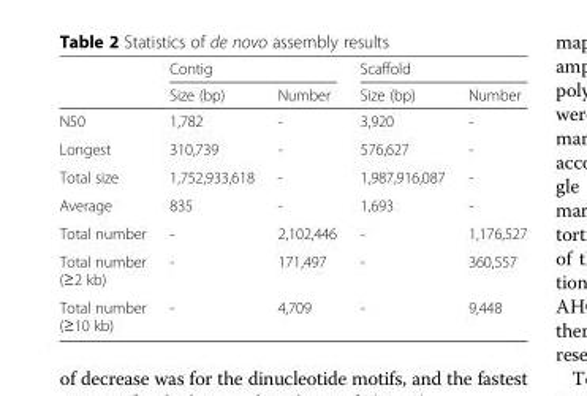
<table><thead><tr><td rowspan="2"></td><td colspan="2">Contig</td><td colspan="2">Scaffold</td></tr><tr><td>Size (bp)</td><td>Number</td><td>Size (bp)</td><td>Number</td></tr></thead><tbody><tr><td>N50</td><td>1,782</td><td>-</td><td>3,920</td><td>-</td></tr><tr><td>Longest</td><td>310,739</td><td>-</td><td>576,627</td><td>-</td></tr><tr><td>Total size</td><td>1,752,933,618</td><td>-</td><td>1,987,916,087</td><td>-</td></tr><tr><td>Average</td><td>835</td><td>-</td><td>1,693</td><td>-</td></tr><tr><td>Total number</td><td>-</td><td>2,102,446</td><td>-</td><td>1,176,527</td></tr><tr><td>Total number (≥2 kb)</td><td>-</td><td>171,497</td><td>-</td><td>360,557</td></tr><tr><td>Total number (≥10 kb)</td><td>-</td><td>4,709</td><td>-</td><td>9,448</td></tr></tbody></table>